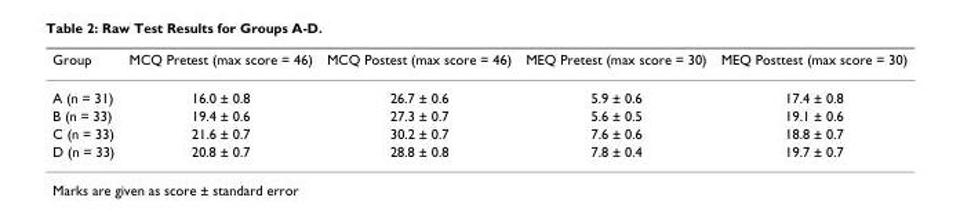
<table><thead><tr><td>Group</td><td>MCQ Pretest (max score = 46)</td><td>MCQ Postest (max score = 46)</td><td>MEQ Pretest (max score = 30)</td><td>MEQ Posttest (max score = 30)</td></tr></thead><tbody><tr><td>A (n = 31)</td><td>16.0 ± 0.8</td><td>26.7 ± 0.6</td><td>5.9 ± 0.6</td><td>17.4 ± 0.8</td></tr><tr><td>B (n = 33)</td><td>19.4 ± 0.6</td><td>27.3 ± 0.7</td><td>5.6 ± 0.5</td><td>19.1 ± 0.6</td></tr><tr><td>C (n = 33)</td><td>21.6 ± 0.7</td><td>30.2 ± 0.7</td><td>7.6 ± 0.6</td><td>18.8 ± 0.7</td></tr><tr><td>D (n = 33)</td><td>20.8 ± 0.7</td><td>28.8 ± 0.8</td><td>7.8 ± 0.4</td><td>19.7 ± 0.7</td></tr></tbody></table>